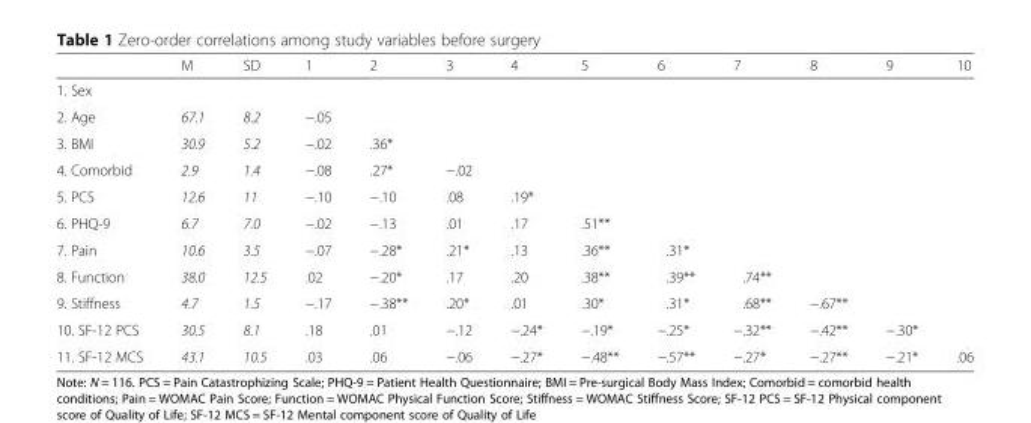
<table><thead><tr><td></td><td>M</td><td>SD</td><td>1</td><td>2</td><td>3</td><td>4</td><td>5</td><td>6</td><td>7</td><td>8</td><td>9</td><td>10</td></tr></thead><tbody><tr><td colspan="13">1. Sex</td></tr><tr><td>2. Age</td><td>67.1</td><td>8.2</td><td>−.05</td><td></td><td></td><td></td><td></td><td></td><td></td><td></td><td></td><td></td></tr><tr><td>3. BMI</td><td>30.9</td><td>5.2</td><td>−.02</td><td>.36*</td><td></td><td></td><td></td><td></td><td></td><td></td><td></td><td></td></tr><tr><td>4. Comorbid</td><td>2.9</td><td>1.4</td><td>−.08</td><td>.27*</td><td>−.02</td><td></td><td></td><td></td><td></td><td></td><td></td><td></td></tr><tr><td>5. PCS</td><td>12.6</td><td>11</td><td>−.10</td><td>−.10</td><td>.08</td><td>.19*</td><td></td><td></td><td></td><td></td><td></td><td></td></tr><tr><td>6. PHQ-9</td><td>6.7</td><td>7.0</td><td>−.02</td><td>−.13</td><td>.01</td><td>.17</td><td>.51**</td><td></td><td></td><td></td><td></td><td></td></tr><tr><td>7. Pain</td><td>10.6</td><td>3.5</td><td>−.07</td><td>−.28*</td><td>.21*</td><td>.13</td><td>.36**</td><td>.31*</td><td></td><td></td><td></td><td></td></tr><tr><td>8. Function</td><td>38.0</td><td>12.5</td><td>.02</td><td>−.20*</td><td>.17</td><td>.20</td><td>.38**</td><td>.39**</td><td>.74**</td><td></td><td></td><td></td></tr><tr><td>9. Stiffness</td><td>4.7</td><td>1.5</td><td>−.17</td><td>−.38**</td><td>.20*</td><td>.01</td><td>.30*</td><td>.31*</td><td>.68**</td><td>−.67**</td><td></td><td></td></tr><tr><td>10. SF-12 PCS</td><td>30.5</td><td>8.1</td><td>.18</td><td>.01</td><td>−.12</td><td>−.24*</td><td>−.19*</td><td>−.25*</td><td>−.32**</td><td>−.42**</td><td>−.30*</td><td></td></tr><tr><td>11. SF-12 MCS</td><td>43.1</td><td>10.5</td><td>.03</td><td>.06</td><td>−.06</td><td>−.27*</td><td>−.48**</td><td>−.57**</td><td>−.27*</td><td>−.27**</td><td>−.21*</td><td>.06</td></tr></tbody></table>